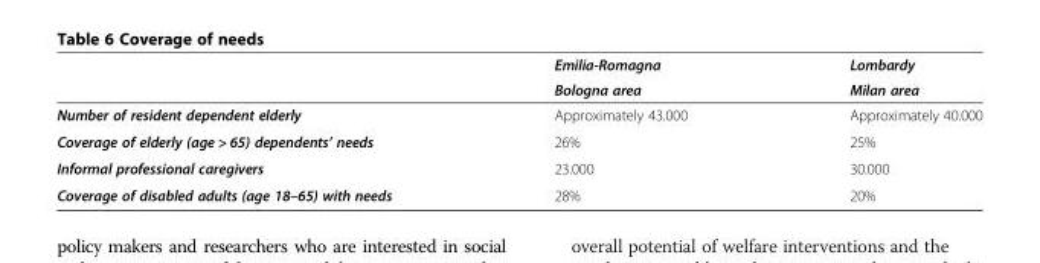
<table><thead><tr><td rowspan="2"></td><td rowspan="2">Emilia-Romagna Bologna area</td><td rowspan="2">Lombardy Milan area</td></tr><tr></tr></thead><tbody><tr><td>Number of resident dependent elderly</td><td>Approximately 43.000</td><td>Approximately 40.000</td></tr><tr><td>Coverage of elderly (age &gt; 65) dependents’ needs</td><td>26%</td><td>25%</td></tr><tr><td>Informal professional caregivers</td><td>23.000</td><td>30.000</td></tr><tr><td>Coverage of disabled adults (age 18–65) with needs</td><td>28%</td><td>20%</td></tr></tbody></table>